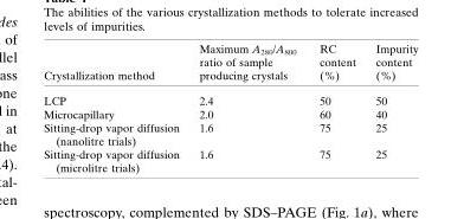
<table><thead><tr><td>Crystallization method</td><td>Maximum A<sub>280</sub>/A<sub>800</sub> ratio of sample producing crystals</td><td>RC content (%)</td><td>Impurity content (%)</td></tr></thead><tbody><tr><td>LCP</td><td>2.4</td><td>50</td><td>50</td></tr><tr><td>Microcapillary</td><td>2.0</td><td>60</td><td>40</td></tr><tr><td>Sitting-drop vapor diffusion (nanolitre trials)</td><td>1.6</td><td>75</td><td>25</td></tr><tr><td>Sitting-drop vapor diffusion (microlitre trials)</td><td>1.6</td><td>75</td><td>25</td></tr></tbody></table>